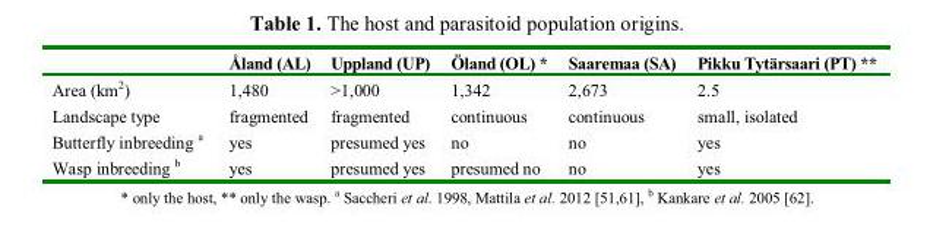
<table><thead><tr><td></td><td>Åland (AL)</td><td>Uppland (UP)</td><td>Öland (OL) *</td><td>Saaremaa (SA)</td><td>Pikku Tytärsaari (PT) **</td></tr></thead><tbody><tr><td>Area (km<sup>2</sup>)</td><td>1,480</td><td>&gt;1,000</td><td>1,342</td><td>2,673</td><td>2.5</td></tr><tr><td>Landscape type</td><td>fragmented</td><td>fragmented</td><td>continuous</td><td>continuous</td><td>small, isolated</td></tr><tr><td>Butterfly inbreeding <sup>a</sup></td><td>yes</td><td>presumed yes</td><td>no</td><td>no</td><td>yes</td></tr><tr><td>Wasp inbreeding <sup>b</sup></td><td>yes</td><td>presumed yes</td><td>presumed no</td><td>no</td><td>yes</td></tr></tbody></table>